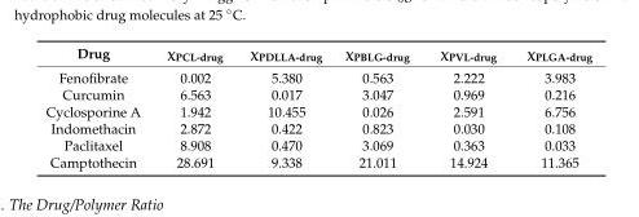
<table><thead><tr><td>Drug</td><td>χ<sub>PCL-drug</sub></td><td>χ<sub>PDLLA-drug</sub></td><td>χ<sub>PBLG-drug</sub></td><td>χ<sub>PVL-drug</sub></td><td>χ<sub>PLGA-drug</sub></td></tr></thead><tbody><tr><td>Fenofibrate</td><td>0.002</td><td>5.380</td><td>0.563</td><td>2.222</td><td>3.983</td></tr><tr><td>Curcumin</td><td>6.563</td><td>0.017</td><td>3.047</td><td>0.969</td><td>0.216</td></tr><tr><td>Cyclosporine A</td><td>1.942</td><td>10.455</td><td>0.026</td><td>2.591</td><td>6.756</td></tr><tr><td>Indomethacin</td><td>2.872</td><td>0.422</td><td>0.823</td><td>0.030</td><td>0.108</td></tr><tr><td>Paclitaxel</td><td>8.908</td><td>0.470</td><td>3.069</td><td>0.363</td><td>0.033</td></tr><tr><td>Camptothecin</td><td>28.691</td><td>9.338</td><td>21.011</td><td>14.924</td><td>11.365</td></tr></tbody></table>